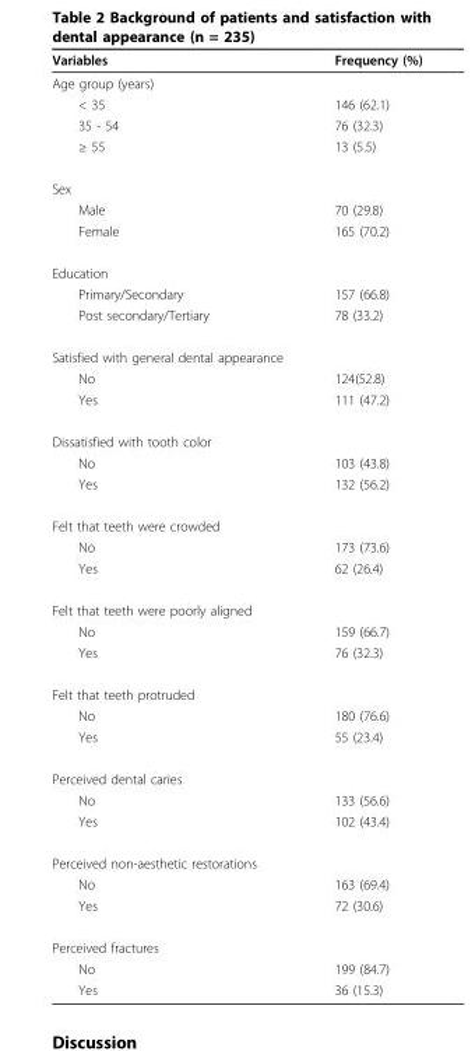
<table><thead><tr><td>Variables</td><td>Frequency (%)</td></tr></thead><tbody><tr><td colspan="2">Age group (years)</td></tr><tr><td>&lt; 35</td><td>146 (62.1)</td></tr><tr><td>35 - 54</td><td>76 (32.3)</td></tr><tr><td>≥ 55</td><td>13 (5.5)</td></tr><tr><td colspan="2">Sex</td></tr><tr><td>Male</td><td>70 (29.8)</td></tr><tr><td>Female</td><td>165 (70.2)</td></tr><tr><td colspan="2">Education</td></tr><tr><td>Primary/Secondary</td><td>157 (66.8)</td></tr><tr><td>Post secondary/Tertiary</td><td>78 (33.2)</td></tr><tr><td colspan="2">Satisfied with general dental appearance</td></tr><tr><td>No</td><td>124(52.8)</td></tr><tr><td>Yes</td><td>111 (47.2)</td></tr><tr><td colspan="2">Dissatisfied with tooth color</td></tr><tr><td>No</td><td>103 (43.8)</td></tr><tr><td>Yes</td><td>132 (56.2)</td></tr><tr><td colspan="2">Felt that teeth were crowded</td></tr><tr><td>No</td><td>173 (73.6)</td></tr><tr><td>Yes</td><td>62 (26.4)</td></tr><tr><td colspan="2">Felt that teeth were poorly aligned</td></tr><tr><td>No</td><td>159 (66.7)</td></tr><tr><td>Yes</td><td>76 (32.3)</td></tr><tr><td colspan="2">Felt that teeth protruded</td></tr><tr><td>No</td><td>180 (76.6)</td></tr><tr><td>Yes</td><td>55 (23.4)</td></tr><tr><td colspan="2">Perceived dental caries</td></tr><tr><td>No</td><td>133 (56.6)</td></tr><tr><td>Yes</td><td>102 (43.4)</td></tr><tr><td colspan="2">Perceived non-aesthetic restorations</td></tr><tr><td>No</td><td>163 (69.4)</td></tr><tr><td>Yes</td><td>72 (30.6)</td></tr><tr><td colspan="2">Perceived fractures</td></tr><tr><td>No</td><td>199 (84.7)</td></tr><tr><td>Yes</td><td>36 (15.3)</td></tr></tbody></table>